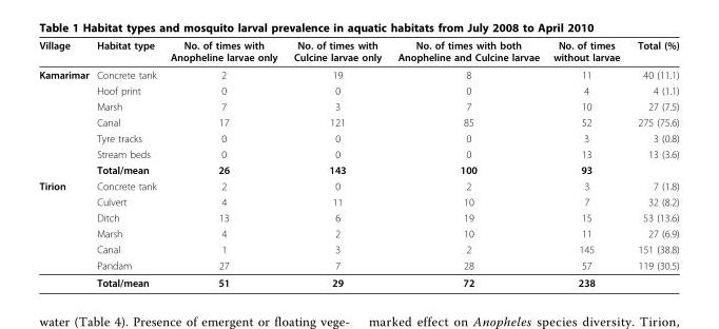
<table><thead><tr><td>Village</td><td>Habitat type</td><td>No. of times with Anopheline larvae only</td><td>No. of times with Culcine larvae only</td><td>No. of times with both Anopheline and Culcine larvae</td><td>No. of times without larvae</td><td>Total (%)</td></tr></thead><tbody><tr><td rowspan="7">Kamarimar</td><td>Concrete tank</td><td>2</td><td>19</td><td>8</td><td>11</td><td>40 (11.1)</td></tr><tr><td>Hoof print</td><td>0</td><td>0</td><td>0</td><td>4</td><td>4 (1.1)</td></tr><tr><td>Marsh</td><td>7</td><td>3</td><td>7</td><td>10</td><td>27 (7.5)</td></tr><tr><td>Canal</td><td>17</td><td>121</td><td>85</td><td>52</td><td>275 (75.6)</td></tr><tr><td>Tyre tracks</td><td>0</td><td>0</td><td>0</td><td>3</td><td>3 (0.8)</td></tr><tr><td>Stream beds</td><td>0</td><td>0</td><td>0</td><td>13</td><td>13 (3.6)</td></tr><tr><td>Total/mean</td><td>26</td><td>143</td><td>100</td><td>93</td><td></td></tr><tr><td rowspan="7">Tirion</td><td>Concrete tank</td><td>2</td><td>0</td><td>2</td><td>3</td><td>7 (1.8)</td></tr><tr><td>Culvert</td><td>4</td><td>11</td><td>10</td><td>7</td><td>32 (8.2)</td></tr><tr><td>Ditch</td><td>13</td><td>6</td><td>19</td><td>15</td><td>53 (13.6)</td></tr><tr><td>Marsh</td><td>4</td><td>2</td><td>10</td><td>11</td><td>27 (6.9)</td></tr><tr><td>Canal</td><td>1</td><td>3</td><td>2</td><td>145</td><td>151 (38.8)</td></tr><tr><td>Pandam</td><td>27</td><td>7</td><td>28</td><td>57</td><td>119 (30.5)</td></tr><tr><td>Total/mean</td><td>51</td><td>29</td><td>72</td><td>238</td><td></td></tr></tbody></table>